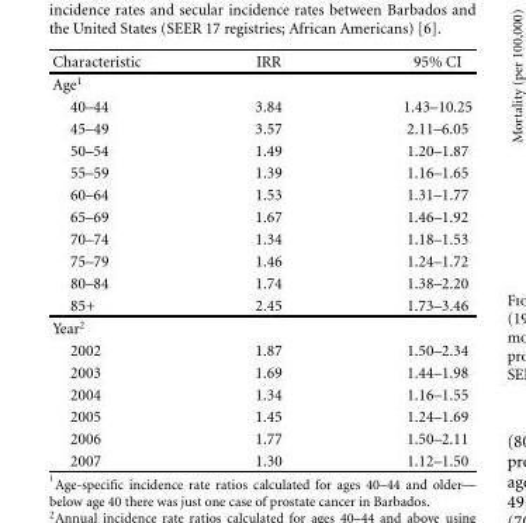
<table><thead><tr><td>Characteristic</td><td>IRR</td><td>95% CI</td></tr></thead><tbody><tr><td colspan="3">Age<sup>1</sup></td></tr><tr><td>40–44</td><td>3.84</td><td>1.43–10.25</td></tr><tr><td>45–49</td><td>3.57</td><td>2.11–6.05</td></tr><tr><td>50–54</td><td>1.49</td><td>1.20–1.87</td></tr><tr><td>55–59</td><td>1.39</td><td>1.16–1.65</td></tr><tr><td>60–64</td><td>1.53</td><td>1.31–1.77</td></tr><tr><td>65–69</td><td>1.67</td><td>1.46–1.92</td></tr><tr><td>70–74</td><td>1.34</td><td>1.18–1.53</td></tr><tr><td>75–79</td><td>1.46</td><td>1.24–1.72</td></tr><tr><td>80–84</td><td>1.74</td><td>1.38–2.20</td></tr><tr><td>85+</td><td>2.45</td><td>1.73–3.46</td></tr><tr><td colspan="3">Year<sup>2</sup></td></tr><tr><td>2002</td><td>1.87</td><td>1.50–2.34</td></tr><tr><td>2003</td><td>1.69</td><td>1.44–1.98</td></tr><tr><td>2004</td><td>1.34</td><td>1.16–1.55</td></tr><tr><td>2005</td><td>1.45</td><td>1.24–1.69</td></tr><tr><td>2006</td><td>1.77</td><td>1.50–2.11</td></tr><tr><td>2007</td><td>1.30</td><td>1.12–1.50</td></tr></tbody></table>